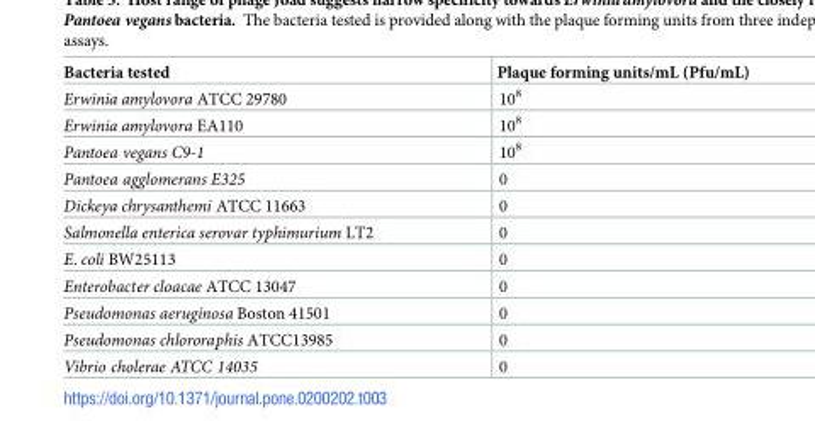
<table><thead><tr><td>Bacteria tested</td><td>Plaque forming units/mL (Pfu/mL)</td></tr></thead><tbody><tr><td>Erwinia amylovora ATCC 29780</td><td>10<sup>8</sup></td></tr><tr><td>Erwinia amylovora EA110</td><td>10<sup>8</sup></td></tr><tr><td>Pantoea vegans C9-1</td><td>10<sup>8</sup></td></tr><tr><td>Pantoea agglomerans E325</td><td>0</td></tr><tr><td>Dickeya chrysanthemi ATCC 11663</td><td>0</td></tr><tr><td>Salmonella enterica serovar typhimurium LT2</td><td>0</td></tr><tr><td>E. coli BW25113</td><td>0</td></tr><tr><td>Enterobacter cloacae ATCC 13047</td><td>0</td></tr><tr><td>Pseudomonas aeruginosa Boston 41501</td><td>0</td></tr><tr><td>Pseudomonas chlororaphis ATCC13985</td><td>0</td></tr><tr><td>Vibrio cholerae ATCC 14035</td><td>0</td></tr></tbody></table>